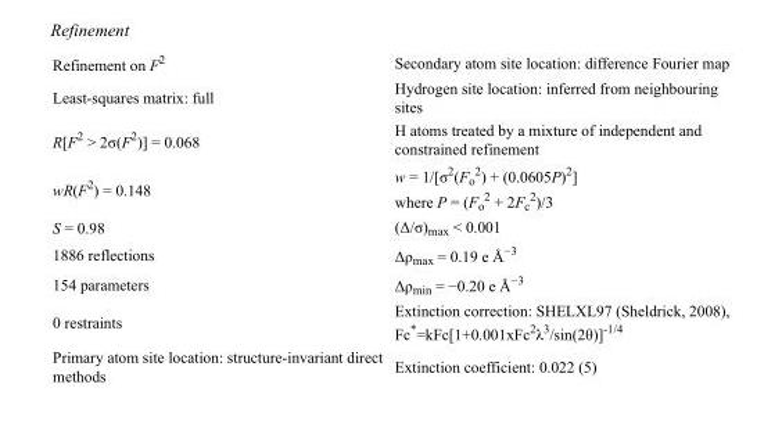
<table><tbody><tr><td>Refinement on F<sup>2</sup></td><td>Secondary atom site location: difference Fourier map</td></tr><tr><td>Least-squares matrix: full</td><td>Hydrogen site location: inferred from neighbouring sites</td></tr><tr><td>R[F<sup>2</sup> &gt; 2σ(F<sup>2</sup>)] = 0.068</td><td>H atoms treated by a mixture of independent and constrained refinement</td></tr><tr><td>wR(F<sup>2</sup>) = 0.148</td><td>w = 1/[σ<sup>2</sup>(F<sub>o</sub> <sup>2</sup>) + (0.0605P)<sup>2</sup>] where P = (F<sub>o</sub> <sup>2</sup> + 2F<sub>c</sub> <sup>2</sup>)/3</td></tr><tr><td>S = 0.98</td><td>(Δ/σ)<sub>max</sub> &lt; 0.001</td></tr><tr><td>1886 reflections</td><td>Δρ<sub>max</sub> = 0.19 e Å<sup>−3</sup></td></tr><tr><td>154 parameters</td><td>Δρ<sub>min</sub> = −0.20 e Å<sup>−3</sup></td></tr><tr><td>0 restraints</td><td>Extinction correction: SHELXL97 (Sheldrick, 2008), Fc*=kFc[1+0.001xFc<sup>2</sup>λ<sup>3</sup>/sin(2θ)]<sup>-1/4</sup></td></tr><tr><td>Primary atom site location: structure-invariant direct methods</td><td>Extinction coefficient: 0.022 (5)</td></tr></tbody></table>